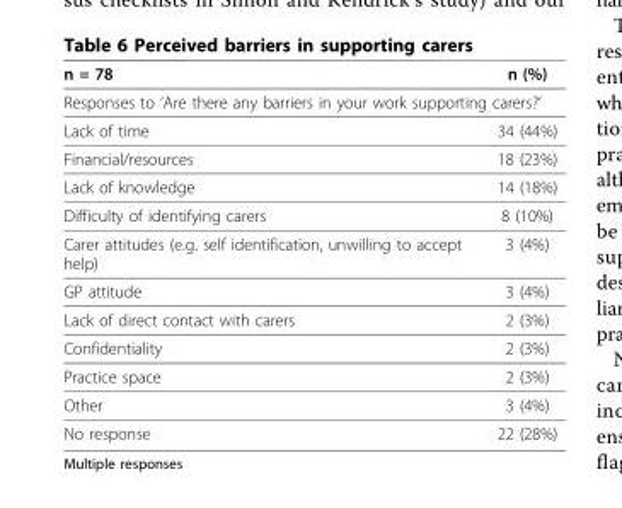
<table><thead><tr><td>n = 78</td><td>n (%)</td></tr></thead><tbody><tr><td colspan="2">Responses to ‘Are there any barriers in your work supporting carers?’</td></tr><tr><td>Lack of time</td><td>34 (44%)</td></tr><tr><td>Financial/resources</td><td>18 (23%)</td></tr><tr><td>Lack of knowledge</td><td>14 (18%)</td></tr><tr><td>Difficulty of identifying carers</td><td>8 (10%)</td></tr><tr><td>Carer attitudes (e.g. self identification, unwilling to accept help)</td><td>3 (4%)</td></tr><tr><td>GP attitude</td><td>3 (4%)</td></tr><tr><td>Lack of direct contact with carers</td><td>2 (3%)</td></tr><tr><td>Confidentiality</td><td>2 (3%)</td></tr><tr><td>Practice space</td><td>2 (3%)</td></tr><tr><td>Other</td><td>3 (4%)</td></tr><tr><td>No response</td><td>22 (28%)</td></tr></tbody></table>